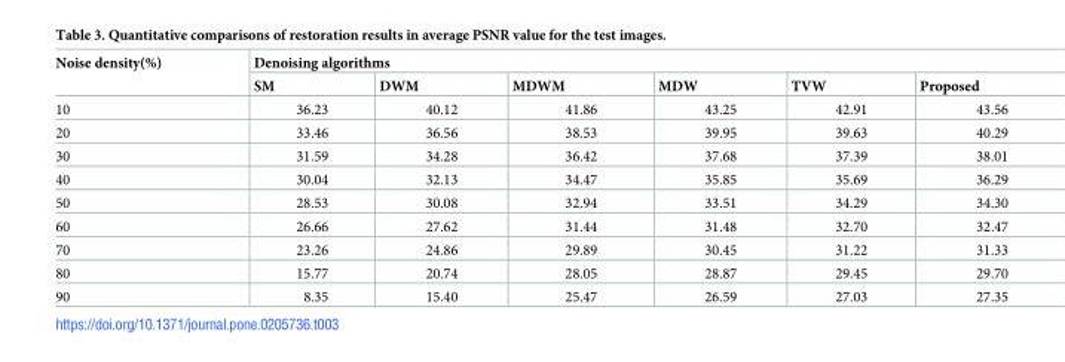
<table><thead><tr><td rowspan="2">Noise density(%)</td><td colspan="6">Denoising algorithms</td></tr><tr><td>SM</td><td>DWM</td><td>MDWM</td><td>MDW</td><td>TVW</td><td>Proposed</td></tr></thead><tbody><tr><td>10</td><td>36.23</td><td>40.12</td><td>41.86</td><td>43.25</td><td>42.91</td><td>43.56</td></tr><tr><td>20</td><td>33.46</td><td>36.56</td><td>38.53</td><td>39.95</td><td>39.63</td><td>40.29</td></tr><tr><td>30</td><td>31.59</td><td>34.28</td><td>36.42</td><td>37.68</td><td>37.39</td><td>38.01</td></tr><tr><td>40</td><td>30.04</td><td>32.13</td><td>34.47</td><td>35.85</td><td>35.69</td><td>36.29</td></tr><tr><td>50</td><td>28.53</td><td>30.08</td><td>32.94</td><td>33.51</td><td>34.29</td><td>34.30</td></tr><tr><td>60</td><td>26.66</td><td>27.62</td><td>31.44</td><td>31.48</td><td>32.70</td><td>32.47</td></tr><tr><td>70</td><td>23.26</td><td>24.86</td><td>29.89</td><td>30.45</td><td>31.22</td><td>31.33</td></tr><tr><td>80</td><td>15.77</td><td>20.74</td><td>28.05</td><td>28.87</td><td>29.45</td><td>29.70</td></tr><tr><td>90</td><td>8.35</td><td>15.40</td><td>25.47</td><td>26.59</td><td>27.03</td><td>27.35</td></tr></tbody></table>